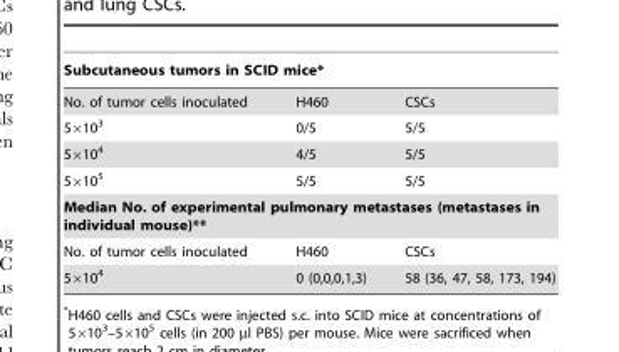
<table><thead><tr><td colspan="3">Subcutaneous tumors in SCID mice*</td></tr><tr><td>No. of tumor cells inoculated</td><td>H460</td><td>CSCs</td></tr></thead><tbody><tr><td>5×10<sup>3</sup></td><td>0/5</td><td>5/5</td></tr><tr><td>5×10<sup>4</sup></td><td>4/5</td><td>5/5</td></tr><tr><td>5×10<sup>5</sup></td><td>5/5</td><td>5/5</td></tr><tr><td colspan="3">Median No. of experimental pulmonary metastases (metastases in individual mouse)**</td></tr><tr><td>No. of tumor cells inoculated</td><td>H460</td><td>CSCs</td></tr><tr><td>5×10<sup>4</sup></td><td>0 (0,0,0,1,3)</td><td>58 (36, 47, 58, 173, 194)</td></tr></tbody></table>